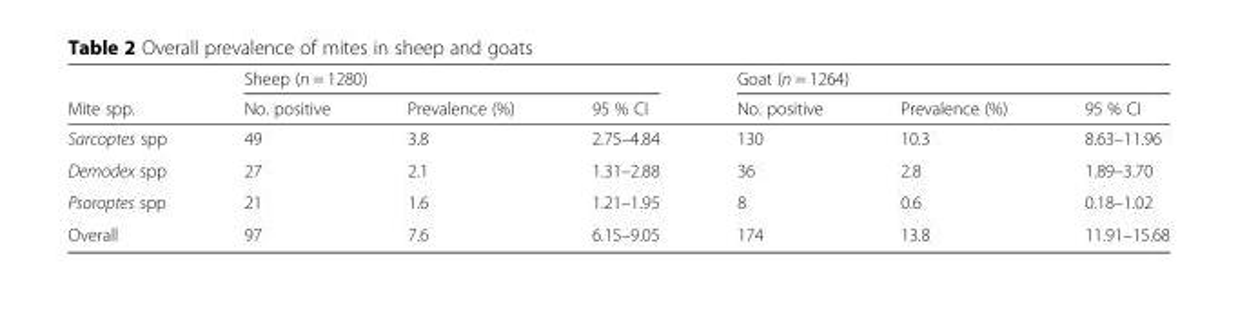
<table><thead><tr><td rowspan="2">Mite spp.</td><td colspan="3">Sheep (n = 1280)</td><td colspan="3">Goat (n = 1264)</td></tr><tr><td>No. positive</td><td>Prevalence (%)</td><td>95 % CI</td><td>No. positive</td><td>Prevalence (%)</td><td>95 % CI</td></tr></thead><tbody><tr><td>Sarcoptes spp</td><td>49</td><td>3.8</td><td>2.75–4.84</td><td>130</td><td>10.3</td><td>8.63–11.96</td></tr><tr><td>Demodex spp</td><td>27</td><td>2.1</td><td>1.31–2.88</td><td>36</td><td>2.8</td><td>1.89–3.70</td></tr><tr><td>Psoroptes spp</td><td>21</td><td>1.6</td><td>1.21–1.95</td><td>8</td><td>0.6</td><td>0.18–1.02</td></tr><tr><td>Overall</td><td>97</td><td>7.6</td><td>6.15–9.05</td><td>174</td><td>13.8</td><td>11.91–15.68</td></tr></tbody></table>